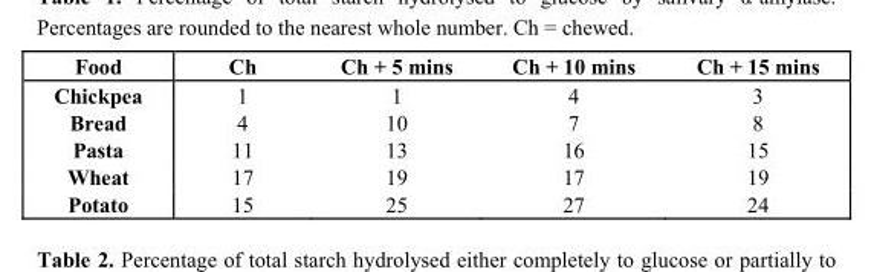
<table><thead><tr><td>Food</td><td>Ch</td><td>Ch + 5 mins</td><td>Ch + 10 mins</td><td>Ch + 15 mins</td></tr></thead><tbody><tr><td>Chickpea</td><td>1</td><td>1</td><td>4</td><td>3</td></tr><tr><td>Bread</td><td>4</td><td>10</td><td>7</td><td>8</td></tr><tr><td>Pasta</td><td>11</td><td>13</td><td>16</td><td>15</td></tr><tr><td>Wheat</td><td>17</td><td>19</td><td>17</td><td>19</td></tr><tr><td>Potato</td><td>15</td><td>25</td><td>27</td><td>24</td></tr></tbody></table>